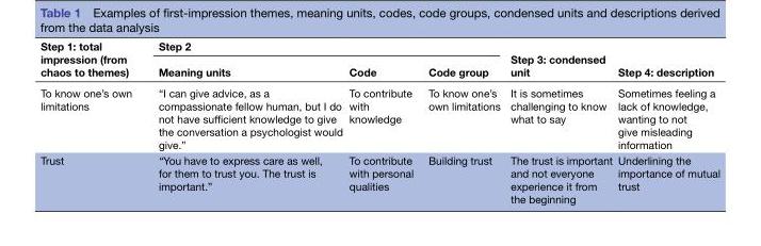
<table><thead><tr><td rowspan="2">Step 1: total impression (from chaos to themes)</td><td colspan="3">Step 2</td><td rowspan="2">Step 3: condensed unit</td><td rowspan="2">Step 4: description</td></tr><tr><td>Meaning units</td><td>Code</td><td>Code group</td></tr></thead><tbody><tr><td>To know one’s own limitations</td><td>“I can give advice, as a compassionate fellow human, but I do not have sufficient knowledge to give the conversation a psychologist would give.”</td><td>To contribute with knowledge</td><td>To know one’s own limitations</td><td>It is sometimes challenging to know what to say</td><td>Sometimes feeling a lack of knowledge, wanting to not give misleading information</td></tr><tr><td>Trust</td><td>“You have to express care as well, for them to trust you. The trust is important.”</td><td>To contribute with personal qualities</td><td>Building trust</td><td>The trust is important and not everyone experience it from the beginning</td><td>Underlining the importance of mutual trust</td></tr></tbody></table>